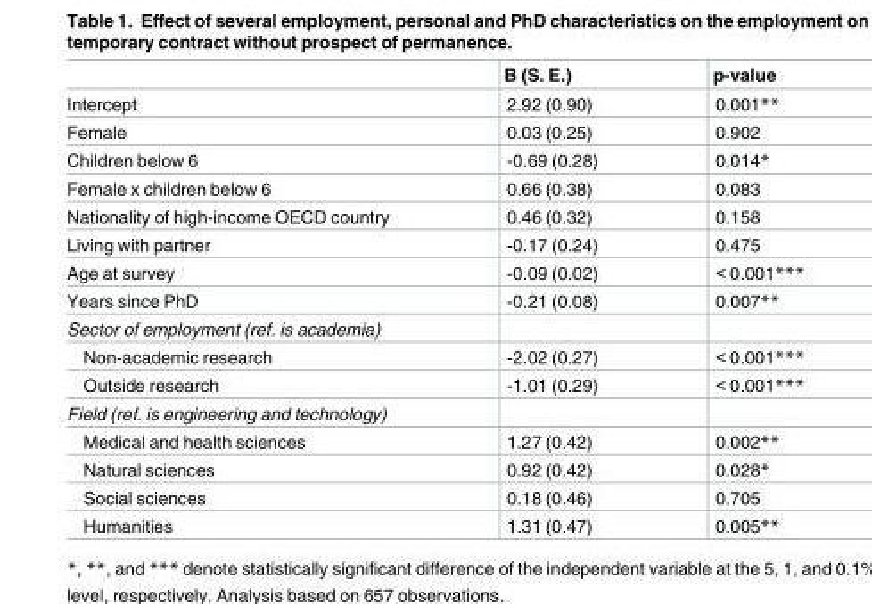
<table><thead><tr><td></td><td>B (S. E.)</td><td>p-value</td></tr></thead><tbody><tr><td>Intercept</td><td>2.92 (0.90)</td><td>0.001**</td></tr><tr><td>Female</td><td>0.03 (0.25)</td><td>0.902</td></tr><tr><td>Children below 6</td><td>-0.69 (0.28)</td><td>0.014*</td></tr><tr><td>Female x children below 6</td><td>0.66 (0.38)</td><td>0.083</td></tr><tr><td>Nationality of high-income OECD country</td><td>0.46 (0.32)</td><td>0.158</td></tr><tr><td>Living with partner</td><td>-0.17 (0.24)</td><td>0.475</td></tr><tr><td>Age at survey</td><td>-0.09 (0.02)</td><td>&lt; 0.001***</td></tr><tr><td>Years since PhD</td><td>-0.21 (0.08)</td><td>0.007**</td></tr><tr><td colspan="3">Sector of employment (ref. is academia)</td></tr><tr><td>Non-academic research</td><td>-2.02 (0.27)</td><td>&lt; 0.001***</td></tr><tr><td>Outside research</td><td>-1.01 (0.29)</td><td>&lt; 0.001***</td></tr><tr><td colspan="3">Field (ref. is engineering and technology)</td></tr><tr><td>Medical and health sciences</td><td>1.27 (0.42)</td><td>0.002**</td></tr><tr><td>Natural sciences</td><td>0.92 (0.42)</td><td>0.028*</td></tr><tr><td>Social sciences</td><td>0.18 (0.46)</td><td>0.705</td></tr><tr><td>Humanities</td><td>1.31 (0.47)</td><td>0.005**</td></tr></tbody></table>